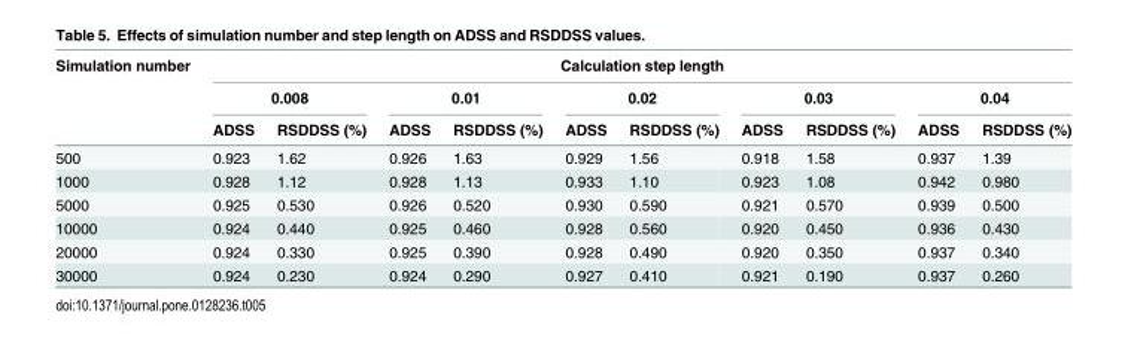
<table><thead><tr><td rowspan="3">Simulation number</td><td colspan="10">Calculation step length</td></tr><tr><td colspan="2">0.008</td><td colspan="2">0.01</td><td colspan="2">0.02</td><td colspan="2">0.03</td><td colspan="2">0.04</td></tr><tr><td>ADSS</td><td>RSDDSS (%)</td><td>ADSS</td><td>RSDDSS (%)</td><td>ADSS</td><td>RSDDSS (%)</td><td>ADSS</td><td>RSDDSS (%)</td><td>ADSS</td><td>RSDDSS (%)</td></tr></thead><tbody><tr><td>500</td><td>0.923</td><td>1.62</td><td>0.926</td><td>1.63</td><td>0.929</td><td>1.56</td><td>0.918</td><td>1.58</td><td>0.937</td><td>1.39</td></tr><tr><td>1000</td><td>0.928</td><td>1.12</td><td>0.928</td><td>1.13</td><td>0.933</td><td>1.10</td><td>0.923</td><td>1.08</td><td>0.942</td><td>0.980</td></tr><tr><td>5000</td><td>0.925</td><td>0.530</td><td>0.926</td><td>0.520</td><td>0.930</td><td>0.590</td><td>0.921</td><td>0.570</td><td>0.939</td><td>0.500</td></tr><tr><td>10000</td><td>0.924</td><td>0.440</td><td>0.925</td><td>0.460</td><td>0.928</td><td>0.560</td><td>0.920</td><td>0.450</td><td>0.936</td><td>0.430</td></tr><tr><td>20000</td><td>0.924</td><td>0.330</td><td>0.925</td><td>0.390</td><td>0.928</td><td>0.490</td><td>0.920</td><td>0.350</td><td>0.937</td><td>0.340</td></tr><tr><td>30000</td><td>0.924</td><td>0.230</td><td>0.924</td><td>0.290</td><td>0.927</td><td>0.410</td><td>0.921</td><td>0.190</td><td>0.937</td><td>0.260</td></tr></tbody></table>